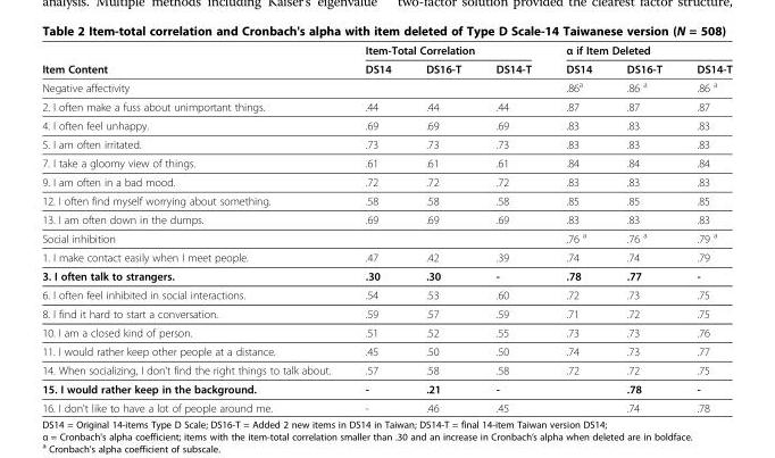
<table><thead><tr><td rowspan="2">Item Content</td><td colspan="3">Item-Total Correlation</td><td colspan="3">α if Item Deleted</td></tr><tr><td>DS14</td><td>DS16-T</td><td>DS14-T</td><td>DS14</td><td>DS16-T</td><td>DS14-T</td></tr></thead><tbody><tr><td>Negative affectivity</td><td></td><td></td><td></td><td>.86<sup>a</sup></td><td>.86 <sup>a</sup></td><td>.86 <sup>a</sup></td></tr><tr><td>2. I often make a fuss about unimportant things.</td><td>.44</td><td>.44</td><td>.44</td><td>.87</td><td>.87</td><td>.87</td></tr><tr><td>4. I often feel unhappy.</td><td>.69</td><td>.69</td><td>.69</td><td>.83</td><td>.83</td><td>.83</td></tr><tr><td>5. I am often irritated.</td><td>.73</td><td>.73</td><td>.73</td><td>.83</td><td>.83</td><td>.83</td></tr><tr><td>7. I take a gloomy view of things.</td><td>.61</td><td>.61</td><td>.61</td><td>.84</td><td>.84</td><td>.84</td></tr><tr><td>9. I am often in a bad mood.</td><td>.72</td><td>.72</td><td>.72</td><td>.83</td><td>.83</td><td>.83</td></tr><tr><td>12. I often find myself worrying about something.</td><td>.58</td><td>.58</td><td>.58</td><td>.85</td><td>.85</td><td>.85</td></tr><tr><td>13. I am often down in the dumps.</td><td>.69</td><td>.69</td><td>.69</td><td>.83</td><td>.83</td><td>.83</td></tr><tr><td>Social inhibition</td><td></td><td></td><td></td><td>.76 <sup>a</sup></td><td>.76 <sup>a</sup></td><td>.79 <sup>a</sup></td></tr><tr><td>1. I make contact easily when I meet people.</td><td>.47</td><td>.42</td><td>.39</td><td>.74</td><td>.74</td><td>.79</td></tr><tr><td>3. I often talk to strangers.</td><td>.30</td><td>.30</td><td>-</td><td>.78</td><td>.77</td><td>-</td></tr><tr><td>6. I often feel inhibited in social interactions.</td><td>.54</td><td>.53</td><td>.60</td><td>.72</td><td>.73</td><td>.75</td></tr><tr><td>8. I find it hard to start a conversation.</td><td>.59</td><td>.57</td><td>.59</td><td>.71</td><td>.72</td><td>.75</td></tr><tr><td>10. I am a closed kind of person.</td><td>.51</td><td>.52</td><td>.55</td><td>.73</td><td>.73</td><td>.76</td></tr><tr><td>11. I would rather keep other people at a distance.</td><td>.45</td><td>.50</td><td>.50</td><td>.74</td><td>.73</td><td>.77</td></tr><tr><td>14. When socializing, I don’t find the right things to talk about.</td><td>.57</td><td>.58</td><td>.58</td><td>.72</td><td>.72</td><td>.75</td></tr><tr><td>15. I would rather keep in the background.</td><td>-</td><td>.21</td><td>-</td><td></td><td>.78</td><td>-</td></tr><tr><td>16. I don&#x27;t like to have a lot of people around me.</td><td>-</td><td>.46</td><td>.45</td><td></td><td>.74</td><td>.78</td></tr></tbody></table>